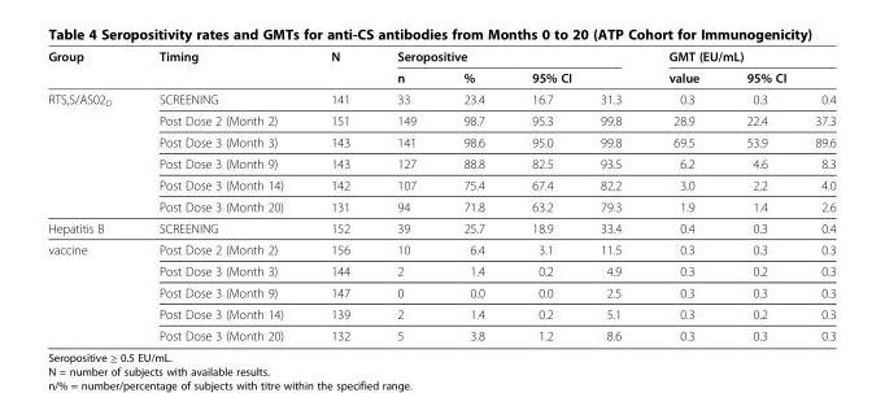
<table><thead><tr><td rowspan="2">Group</td><td rowspan="2">Timing</td><td rowspan="2">N</td><td colspan="4">Seropositive</td><td rowspan="2">GMT (EU/mL) value</td><td rowspan="2">95% CI</td><td rowspan="2"></td></tr><tr><td>n</td><td>%</td><td>95% CI</td><td></td></tr></thead><tbody><tr><td rowspan="6">RTS,S/AS02<sub>D</sub></td><td>SCREENING</td><td>141</td><td>33</td><td>23.4</td><td>16.7</td><td>31.3</td><td>0.3</td><td>0.3</td><td>0.4</td></tr><tr><td>Post Dose 2 (Month 2)</td><td>151</td><td>149</td><td>98.7</td><td>95.3</td><td>99.8</td><td>28.9</td><td>22.4</td><td>37.3</td></tr><tr><td>Post Dose 3 (Month 3)</td><td>143</td><td>141</td><td>98.6</td><td>95.0</td><td>99.8</td><td>69.5</td><td>53.9</td><td>89.6</td></tr><tr><td>Post Dose 3 (Month 9)</td><td>143</td><td>127</td><td>88.8</td><td>82.5</td><td>93.5</td><td>6.2</td><td>4.6</td><td>8.3</td></tr><tr><td>Post Dose 3 (Month 14)</td><td>142</td><td>107</td><td>75.4</td><td>67.4</td><td>82.2</td><td>3.0</td><td>2.2</td><td>4.0</td></tr><tr><td>Post Dose 3 (Month 20)</td><td>131</td><td>94</td><td>71.8</td><td>63.2</td><td>79.3</td><td>1.9</td><td>1.4</td><td>2.6</td></tr><tr><td>Hepatitis B</td><td>SCREENING</td><td>152</td><td>39</td><td>25.7</td><td>18.9</td><td>33.4</td><td>0.4</td><td>0.3</td><td>0.4</td></tr><tr><td rowspan="5">vaccine</td><td>Post Dose 2 (Month 2)</td><td>156</td><td>10</td><td>6.4</td><td>3.1</td><td>11.5</td><td>0.3</td><td>0.3</td><td>0.3</td></tr><tr><td>Post Dose 3 (Month 3)</td><td>144</td><td>2</td><td>1.4</td><td>0.2</td><td>4.9</td><td>0.3</td><td>0.2</td><td>0.3</td></tr><tr><td>Post Dose 3 (Month 9)</td><td>147</td><td>0</td><td>0.0</td><td>0.0</td><td>2.5</td><td>0.3</td><td>0.3</td><td>0.3</td></tr><tr><td>Post Dose 3 (Month 14)</td><td>139</td><td>2</td><td>1.4</td><td>0.2</td><td>5.1</td><td>0.3</td><td>0.2</td><td>0.3</td></tr><tr><td>Post Dose 3 (Month 20)</td><td>132</td><td>5</td><td>3.8</td><td>1.2</td><td>8.6</td><td>0.3</td><td>0.3</td><td>0.3</td></tr></tbody></table>